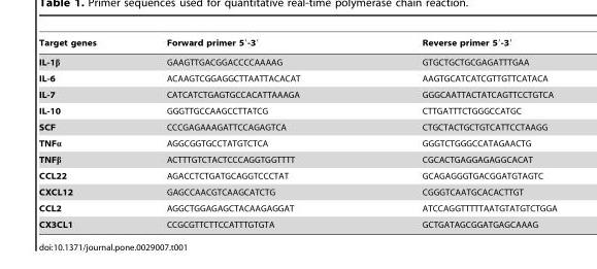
<table><thead><tr><td>Target genes</td><td>Forward primer 5′-3′</td><td>Reverse primer 5′-3′</td></tr></thead><tbody><tr><td>IL-1β</td><td>GAAGTTGACGGACCCCAAAAG</td><td>GTGCTGCTGCGAGATTTGAA</td></tr><tr><td>IL-6</td><td>ACAAGTCGGAGGCTTAATTACACAT</td><td>AAGTGCATCATCGTTGTTCATACA</td></tr><tr><td>IL-7</td><td>CATCATCTGAGTGCCACATTAAAGA</td><td>GGGCAATTACTATCAGTTCCTGTCA</td></tr><tr><td>IL-10</td><td>GGGTTGCCAAGCCTTATCG</td><td>CTTGATTTCTGGGCCATGC</td></tr><tr><td>SCF</td><td>CCCGAGAAAGATTCCAGAGTCA</td><td>CTGCTACTGCTGTCATTCCTAAGG</td></tr><tr><td>TNFα</td><td>AGGCGGTGCCTATGTCTCA</td><td>GGGTCTGGGCCATAGAACTG</td></tr><tr><td>TNFβ</td><td>ACTTTGTCTACTCCCAGGTGGTTTT</td><td>CGCACTGAGGAGAGGCACAT</td></tr><tr><td>CCL22</td><td>AGACCTCTGATGCAGGTCCCTAT</td><td>GCAGAGGGTGACGGATGTAGTC</td></tr><tr><td>CXCL12</td><td>GAGCCAACGTCAAGCATCTG</td><td>CGGGTCAATGCACACTTGT</td></tr><tr><td>CCL2</td><td>AGGCTGGAGAGCTACAAGAGGAT</td><td>ATCCAGGTTTTTAATGTATGTCTGGA</td></tr><tr><td>CX3CL1</td><td>CCGCGTTCTTCCATTTGTGTA</td><td>GCTGATAGCGGATGAGCAAAG</td></tr></tbody></table>